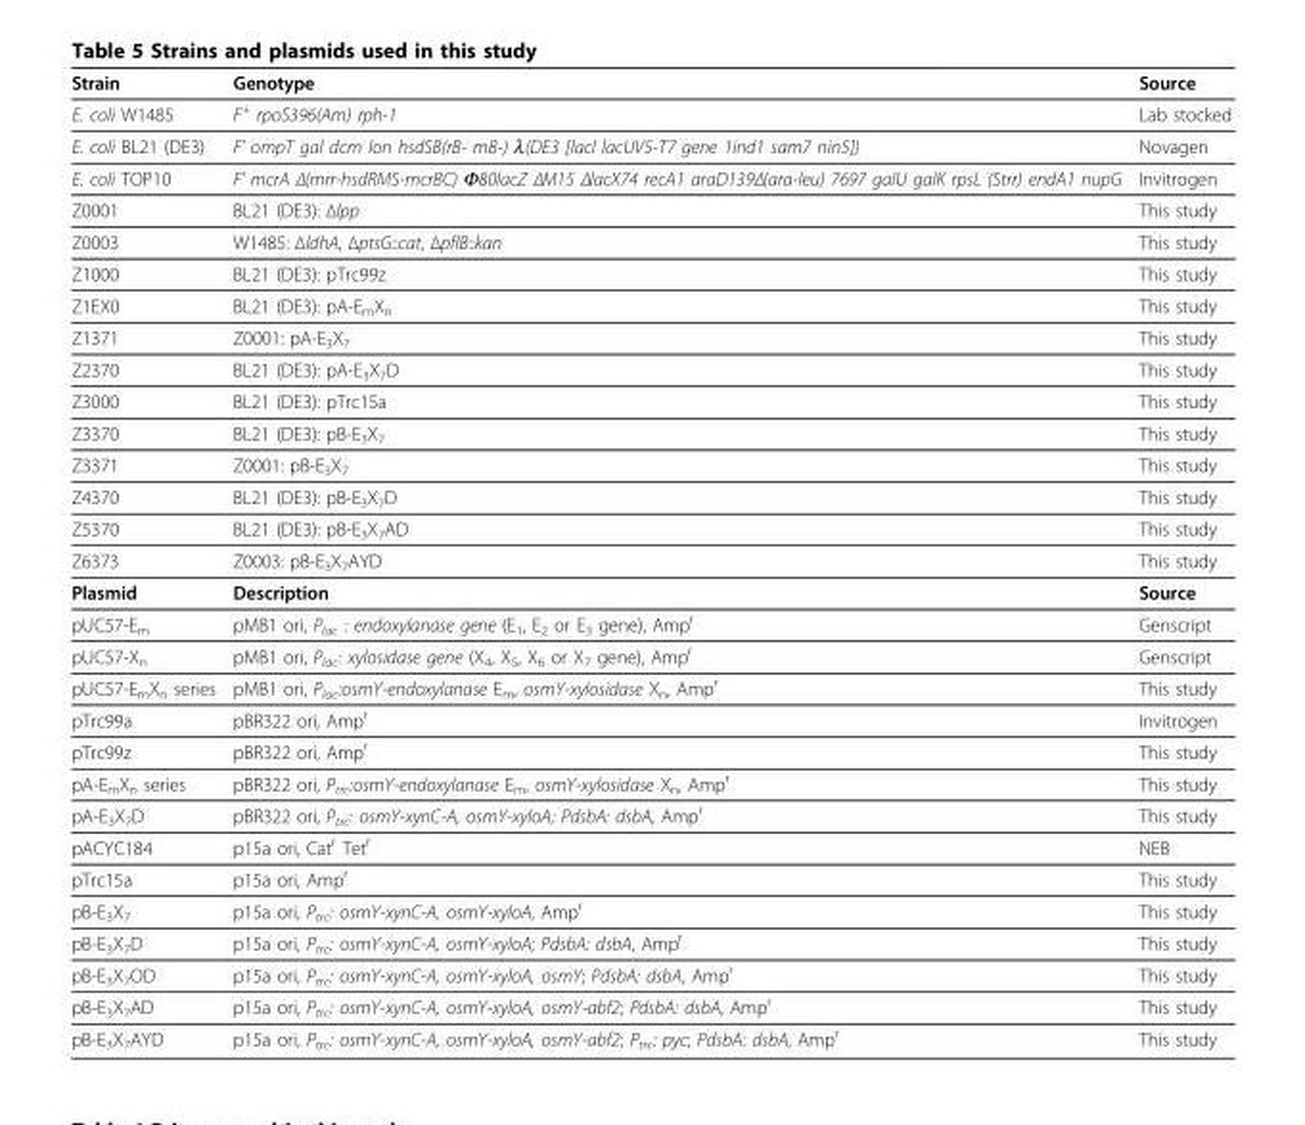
<table><thead><tr><td>Strain</td><td>Genotype</td><td>Source</td></tr></thead><tbody><tr><td>E. coli W1485</td><td>F<sup>+</sup> rpoS396(Am) rph-1</td><td>Lab stocked</td></tr><tr><td>E. coli BL21 (DE3)</td><td>F’ ompT gal dcm lon hsdSB(rB- mB-) λ(DE3 [lacI lacUV5-T7 gene 1ind1 sam7 nin5])</td><td>Novagen</td></tr><tr><td>E. coli TOP10</td><td>F’ mcrA Δ(mrr-hsdRMS-mcrBC) Φ80lacZ ΔM15 ΔlacΧ74 recA1 araD139Δ(ara-leu) 7697 galU galK rpsL (Strr) endA1 nupG</td><td>Invitrogen</td></tr><tr><td>Z0001</td><td>BL21 (DE3): Δlpp</td><td>This study</td></tr><tr><td>Z0003</td><td>W1485: ΔldhA, ΔptsG::cat, ΔpflB::kan</td><td>This study</td></tr><tr><td>Z1000</td><td>BL21 (DE3): pTrc99z</td><td>This study</td></tr><tr><td>Z1EX0</td><td>BL21 (DE3): pA-E<sub>m</sub>X<sub>n</sub></td><td>This study</td></tr><tr><td>Z1371</td><td>Z0001: pA-E<sub>3</sub>X<sub>7</sub></td><td>This study</td></tr><tr><td>Z2370</td><td>BL21 (DE3): pA-E<sub>3</sub>X<sub>7</sub>D</td><td>This study</td></tr><tr><td>Z3000</td><td>BL21 (DE3): pTrc15a</td><td>This study</td></tr><tr><td>Z3370</td><td>BL21 (DE3): pB-E<sub>3</sub>X<sub>7</sub></td><td>This study</td></tr><tr><td>Z3371</td><td>Z0001: pB-E<sub>3</sub>X<sub>7</sub></td><td>This study</td></tr><tr><td>Z4370</td><td>BL21 (DE3): pB-E<sub>3</sub>X<sub>7</sub>D</td><td>This study</td></tr><tr><td>Z5370</td><td>BL21 (DE3): pB-E<sub>3</sub>X<sub>7</sub>AD</td><td>This study</td></tr><tr><td>Z6373</td><td>Z0003: pB-E<sub>3</sub>X<sub>7</sub>AYD</td><td>This study</td></tr><tr><td>Plasmid</td><td>Description</td><td>Source</td></tr><tr><td>pUC57-E<sub>m</sub></td><td>pMB1 ori, P<sub>lac</sub> : endoxylanase gene (E<sub>1</sub>, E<sub>2</sub> or E<sub>3</sub> gene), Amp<sup>r</sup></td><td>Genscript</td></tr><tr><td>pUC57-X<sub>n</sub></td><td>pMB1 ori, P<sub>lac</sub>: xylosidase gene (X<sub>4</sub>, X<sub>5</sub>, X<sub>6</sub> or X<sub>7</sub> gene), Amp<sup>r</sup></td><td>Genscript</td></tr><tr><td>pUC57-E<sub>m</sub>X<sub>n</sub> series</td><td>pMB1 ori, P<sub>lac</sub>:osmY-endoxylanase E<sub>m</sub>, osmY-xylosidase X<sub>n</sub>, Amp<sup>r</sup></td><td>This study</td></tr><tr><td>pTrc99a</td><td>pBR322 ori, Amp<sup>r</sup></td><td>Invitrogen</td></tr><tr><td>pTrc99z</td><td>pBR322 ori, Amp<sup>r</sup></td><td>This study</td></tr><tr><td>pA-E<sub>m</sub>X<sub>n</sub> series</td><td>pBR322 ori, P<sub>trc</sub>:osmY-endoxylanase E<sub>m</sub>, osmY-xylosidase X<sub>n</sub>, Amp<sup>r</sup></td><td>This study</td></tr><tr><td>pA-E<sub>3</sub>X<sub>7</sub>D</td><td>pBR322 ori, P<sub>trc</sub>: osmY-xynC-A, osmY-xyloA; PdsbA: dsbA, Amp<sup>r</sup></td><td>This study</td></tr><tr><td>pACYC184</td><td>p15a ori, Cat<sup>r</sup> Tet<sup>r</sup></td><td>NEB</td></tr><tr><td>pTrc15a</td><td>p15a ori, Amp<sup>r</sup></td><td>This study</td></tr><tr><td>pB-E<sub>3</sub>X<sub>7</sub></td><td>p15a ori, P<sub>trc</sub>: osmY-xynC-A, osmY-xyloA, Amp<sup>r</sup></td><td>This study</td></tr><tr><td>pB-E<sub>3</sub>X<sub>7</sub>D</td><td>p15a ori, P<sub>trc</sub>: osmY-xynC-A, osmY-xyloA; PdsbA: dsbA, Amp<sup>r</sup></td><td>This study</td></tr><tr><td>pB-E<sub>3</sub>X<sub>7</sub>OD</td><td>p15a ori, P<sub>trc</sub>: osmY-xynC-A, osmY-xyloA, osmY; PdsbA: dsbA, Amp<sup>r</sup></td><td>This study</td></tr><tr><td>pB-E<sub>3</sub>X<sub>7</sub>AD</td><td>p15a ori, P<sub>trc</sub>: osmY-xynC-A, osmY-xyloA, osmY-abf2; PdsbA: dsbA, Amp<sup>r</sup></td><td>This study</td></tr><tr><td>pB-E<sub>3</sub>X<sub>7</sub>AYD</td><td>p15a ori, P<sub>trc</sub>: osmY-xynC-A, osmY-xyloA, osmY-abf2; P<sub>trc</sub>: pyc; PdsbA: dsbA, Amp<sup>r</sup></td><td>This study</td></tr></tbody></table>